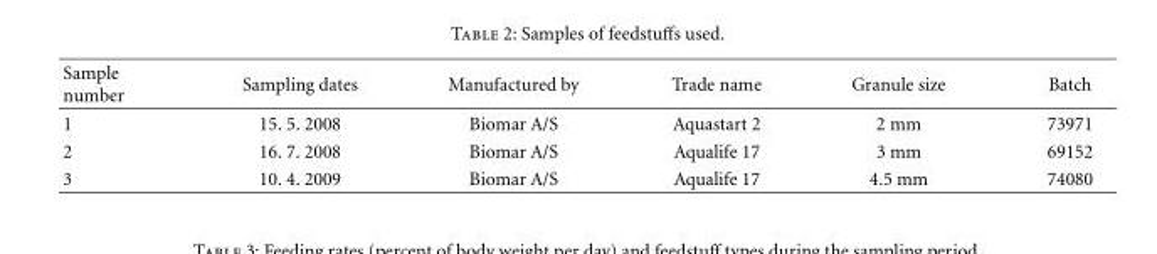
<table><thead><tr><td>Sample number</td><td>Sampling dates</td><td>Manufactured by</td><td>Trade name</td><td>Granule size</td><td>Batch</td></tr></thead><tbody><tr><td>1</td><td>15. 5. 2008</td><td>Biomar A/S</td><td>Aquastart 2</td><td>2 mm</td><td>73971</td></tr><tr><td>2</td><td>16. 7. 2008</td><td>Biomar A/S</td><td>Aqualife 17</td><td>3 mm</td><td>69152</td></tr><tr><td>3</td><td>10. 4. 2009</td><td>Biomar A/S</td><td>Aqualife 17</td><td>4.5 mm</td><td>74080</td></tr></tbody></table>